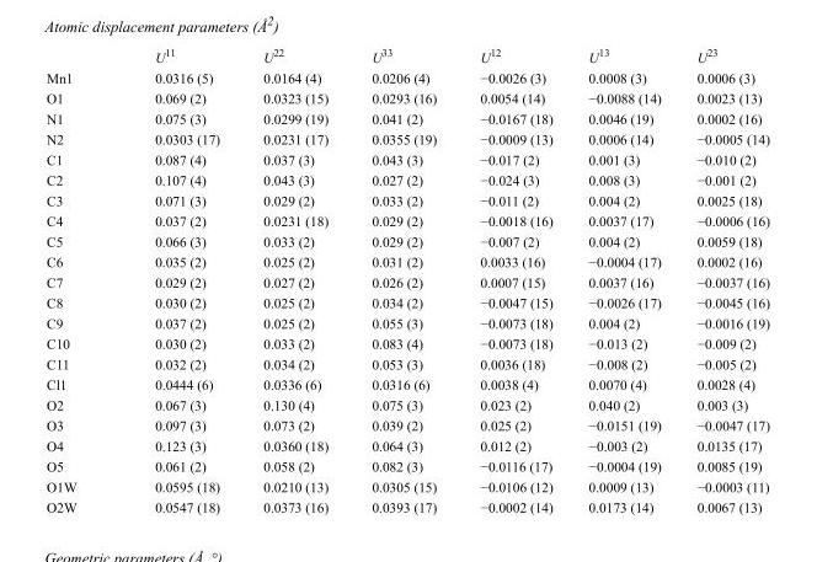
<table><thead><tr><td></td><td>U<sup>11</sup></td><td>U<sup>22</sup></td><td>U<sup>33</sup></td><td>U<sup>12</sup></td><td>U<sup>13</sup></td><td>U<sup>23</sup></td></tr></thead><tbody><tr><td>Mn1</td><td>0.0316 (5)</td><td>0.0164 (4)</td><td>0.0206 (4)</td><td>−0.0026 (3)</td><td>0.0008 (3)</td><td>0.0006 (3)</td></tr><tr><td>O1</td><td>0.069 (2)</td><td>0.0323 (15)</td><td>0.0293 (16)</td><td>0.0054 (14)</td><td>−0.0088 (14)</td><td>0.0023 (13)</td></tr><tr><td>N1</td><td>0.075 (3)</td><td>0.0299 (19)</td><td>0.041 (2)</td><td>−0.0167 (18)</td><td>0.0046 (19)</td><td>0.0002 (16)</td></tr><tr><td>N2</td><td>0.0303 (17)</td><td>0.0231 (17)</td><td>0.0355 (19)</td><td>−0.0009 (13)</td><td>0.0006 (14)</td><td>−0.0005 (14)</td></tr><tr><td>C1</td><td>0.087 (4)</td><td>0.037 (3)</td><td>0.043 (3)</td><td>−0.017 (2)</td><td>0.001 (3)</td><td>−0.010 (2)</td></tr><tr><td>C2</td><td>0.107 (4)</td><td>0.043 (3)</td><td>0.027 (2)</td><td>−0.024 (3)</td><td>0.008 (3)</td><td>−0.001 (2)</td></tr><tr><td>C3</td><td>0.071 (3)</td><td>0.029 (2)</td><td>0.033 (2)</td><td>−0.011 (2)</td><td>0.004 (2)</td><td>0.0025 (18)</td></tr><tr><td>C4</td><td>0.037 (2)</td><td>0.0231 (18)</td><td>0.029 (2)</td><td>−0.0018 (16)</td><td>0.0037 (17)</td><td>−0.0006 (16)</td></tr><tr><td>C5</td><td>0.066 (3)</td><td>0.033 (2)</td><td>0.029 (2)</td><td>−0.007 (2)</td><td>0.004 (2)</td><td>0.0059 (18)</td></tr><tr><td>C6</td><td>0.035 (2)</td><td>0.025 (2)</td><td>0.031 (2)</td><td>0.0033 (16)</td><td>−0.0004 (17)</td><td>0.0002 (16)</td></tr><tr><td>C7</td><td>0.029 (2)</td><td>0.027 (2)</td><td>0.026 (2)</td><td>0.0007 (15)</td><td>0.0037 (16)</td><td>−0.0037 (16)</td></tr><tr><td>C8</td><td>0.030 (2)</td><td>0.025 (2)</td><td>0.034 (2)</td><td>−0.0047 (15)</td><td>−0.0026 (17)</td><td>−0.0045 (16)</td></tr><tr><td>C9</td><td>0.037 (2)</td><td>0.025 (2)</td><td>0.055 (3)</td><td>−0.0073 (18)</td><td>0.004 (2)</td><td>−0.0016 (19)</td></tr><tr><td>C10</td><td>0.030 (2)</td><td>0.033 (2)</td><td>0.083 (4)</td><td>−0.0073 (18)</td><td>−0.013 (2)</td><td>−0.009 (2)</td></tr><tr><td>C11</td><td>0.032 (2)</td><td>0.034 (2)</td><td>0.053 (3)</td><td>0.0036 (18)</td><td>−0.008 (2)</td><td>−0.005 (2)</td></tr><tr><td>Cl1</td><td>0.0444 (6)</td><td>0.0336 (6)</td><td>0.0316 (6)</td><td>0.0038 (4)</td><td>0.0070 (4)</td><td>0.0028 (4)</td></tr><tr><td>O2</td><td>0.067 (3)</td><td>0.130 (4)</td><td>0.075 (3)</td><td>0.023 (2)</td><td>0.040 (2)</td><td>0.003 (3)</td></tr><tr><td>O3</td><td>0.097 (3)</td><td>0.073 (2)</td><td>0.039 (2)</td><td>0.025 (2)</td><td>−0.0151 (19)</td><td>−0.0047 (17)</td></tr><tr><td>O4</td><td>0.123 (3)</td><td>0.0360 (18)</td><td>0.064 (3)</td><td>0.012 (2)</td><td>−0.003 (2)</td><td>0.0135 (17)</td></tr><tr><td>O5</td><td>0.061 (2)</td><td>0.058 (2)</td><td>0.082 (3)</td><td>−0.0116 (17)</td><td>−0.0004 (19)</td><td>0.0085 (19)</td></tr><tr><td>O1W</td><td>0.0595 (18)</td><td>0.0210 (13)</td><td>0.0305 (15)</td><td>−0.0106 (12)</td><td>0.0009 (13)</td><td>−0.0003 (11)</td></tr><tr><td>O2W</td><td>0.0547 (18)</td><td>0.0373 (16)</td><td>0.0393 (17)</td><td>−0.0002 (14)</td><td>0.0173 (14)</td><td>0.0067 (13)</td></tr></tbody></table>